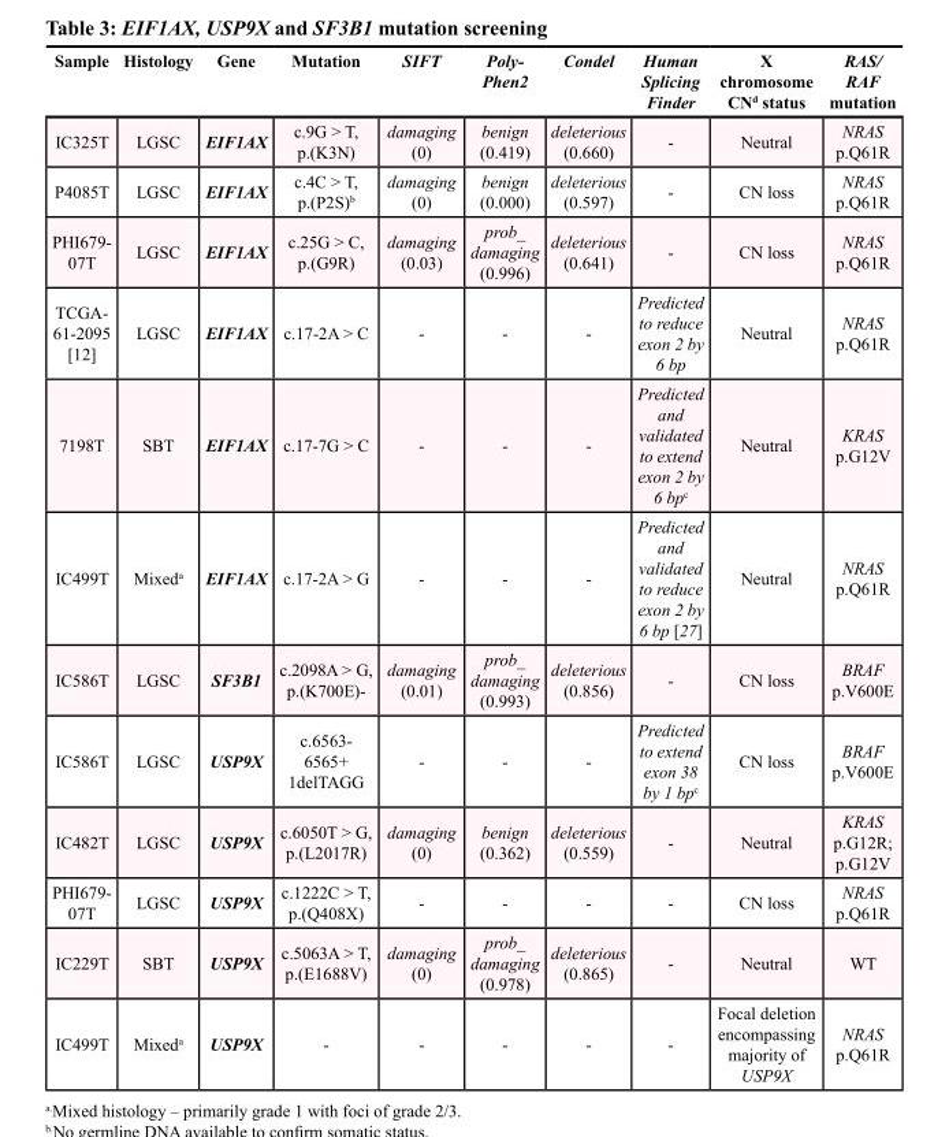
<table><thead><tr><td>Sample</td><td>Histology</td><td>Gene</td><td>Mutation</td><td>SIFT</td><td>Poly- Phen2</td><td>Condel</td><td>Human Splicing Finder</td><td>X chromosome CN<sup>d</sup> status</td><td>RAS/ RAF mutation</td></tr></thead><tbody><tr><td>IC325T</td><td>LGSC</td><td>EIF1AX</td><td>c.9G &gt; T, p.(K3N)</td><td>damaging (0)</td><td>benign (0.419)</td><td>deleterious (0.660)</td><td>-</td><td>Neutral</td><td>NRAS p.Q61R</td></tr><tr><td>P4085T</td><td>LGSC</td><td>EIF1AX</td><td>c.4C &gt; T, p.(P2S)<sup>b</sup></td><td>damaging (0)</td><td>benign (0.000)</td><td>deleterious (0.597)</td><td>-</td><td>CN loss</td><td>NRAS p.Q61R</td></tr><tr><td>PHI679- 07T</td><td>LGSC</td><td>EIF1AX</td><td>c.25G &gt; C, p.(G9R)</td><td>damaging (0.03)</td><td>prob_ damaging (0.996)</td><td>deleterious (0.641)</td><td>-</td><td>CN loss</td><td>NRAS p.Q61R</td></tr><tr><td>TCGA- 61-2095 [12]</td><td>LGSC</td><td>EIF1AX</td><td>c.17-2A &gt; C</td><td>-</td><td>-</td><td>-</td><td>Predicted to reduce exon 2 by 6 bp</td><td>Neutral</td><td>NRAS p.Q61R</td></tr><tr><td>7198T</td><td>SBT</td><td>EIF1AX</td><td>c.17-7G &gt; C</td><td>-</td><td>-</td><td>-</td><td>Predicted and validated to extend exon 2 by 6 bp<sup>c</sup></td><td>Neutral</td><td>KRAS p.G12V</td></tr><tr><td>IC499T</td><td>Mixed<sup>a</sup></td><td>EIF1AX</td><td>c.17-2A &gt; G</td><td>-</td><td>-</td><td>-</td><td>Predicted and validated to reduce exon 2 by 6 bp [27]</td><td>Neutral</td><td>NRAS p.Q61R</td></tr><tr><td>IC586T</td><td>LGSC</td><td>SF3B1</td><td>c.2098A &gt; G, p.(K700E)-</td><td>damaging (0.01)</td><td>prob_ damaging (0.993)</td><td>deleterious (0.856)</td><td>-</td><td>CN loss</td><td>BRAF p.V600E</td></tr><tr><td>IC586T</td><td>LGSC</td><td>USP9X</td><td>c.6563- 6565+ 1delTAGG</td><td>-</td><td>-</td><td>-</td><td>Predicted to extend exon 38 by 1 bp<sup>c</sup></td><td>CN loss</td><td>BRAF p.V600E</td></tr><tr><td>IC482T</td><td>LGSC</td><td>USP9X</td><td>c.6050T &gt; G, p.(L2017R)</td><td>damaging (0)</td><td>benign (0.362)</td><td>deleterious (0.559)</td><td>-</td><td>Neutral</td><td>KRAS p.G12R; p.G12V</td></tr><tr><td>PHI679- 07T</td><td>LGSC</td><td>USP9X</td><td>c.1222C &gt; T, p.(Q408X)</td><td>-</td><td>-</td><td>-</td><td>-</td><td>CN loss</td><td>NRAS p.Q61R</td></tr><tr><td>IC229T</td><td>SBT</td><td>USP9X</td><td>c.5063A &gt; T, p.(E1688V)</td><td>damaging (0)</td><td>prob_ damaging (0.978)</td><td>deleterious (0.865)</td><td>-</td><td>Neutral</td><td>WT</td></tr><tr><td>IC499T</td><td>Mixed<sup>a</sup></td><td>USP9X</td><td>-</td><td>-</td><td>-</td><td>-</td><td>-</td><td>Focal deletion encompassing majority of USP9X</td><td>NRAS p.Q61R</td></tr></tbody></table>